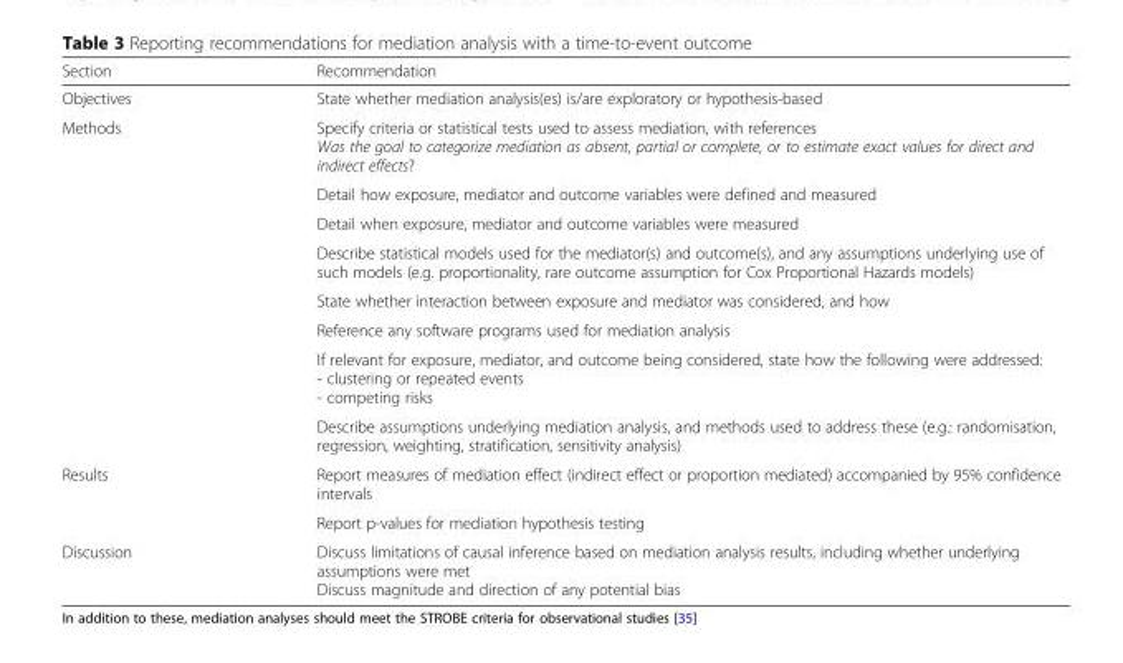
<table><thead><tr><td>Section</td><td>Recommendation</td></tr></thead><tbody><tr><td>Objectives</td><td>State whether mediation analysis(es) is/are exploratory or hypothesis-based</td></tr><tr><td rowspan="8">Methods</td><td>Specify criteria or statistical tests used to assess mediation, with references Was the goal to categorize mediation as absent, partial or complete, or to estimate exact values for direct and indirect effects?</td></tr><tr><td>Detail how exposure, mediator and outcome variables were defined and measured</td></tr><tr><td>Detail when exposure, mediator and outcome variables were measured</td></tr><tr><td>Describe statistical models used for the mediator(s) and outcome(s), and any assumptions underlying use of such models (e.g. proportionality, rare outcome assumption for Cox Proportional Hazards models)</td></tr><tr><td>State whether interaction between exposure and mediator was considered, and how</td></tr><tr><td>Reference any software programs used for mediation analysis</td></tr><tr><td>If relevant for exposure, mediator, and outcome being considered, state how the following were addressed: - clustering or repeated events - competing risks</td></tr><tr><td>Describe assumptions underlying mediation analysis, and methods used to address these (e.g.: randomisation, regression, weighting, stratification, sensitivity analysis)</td></tr><tr><td rowspan="2">Results</td><td>Report measures of mediation effect (indirect effect or proportion mediated) accompanied by 95% confidence intervals</td></tr><tr><td>Report p-values for mediation hypothesis testing</td></tr><tr><td>Discussion</td><td>Discuss limitations of causal inference based on mediation analysis results, including whether underlying assumptions were met Discuss magnitude and direction of any potential bias</td></tr></tbody></table>